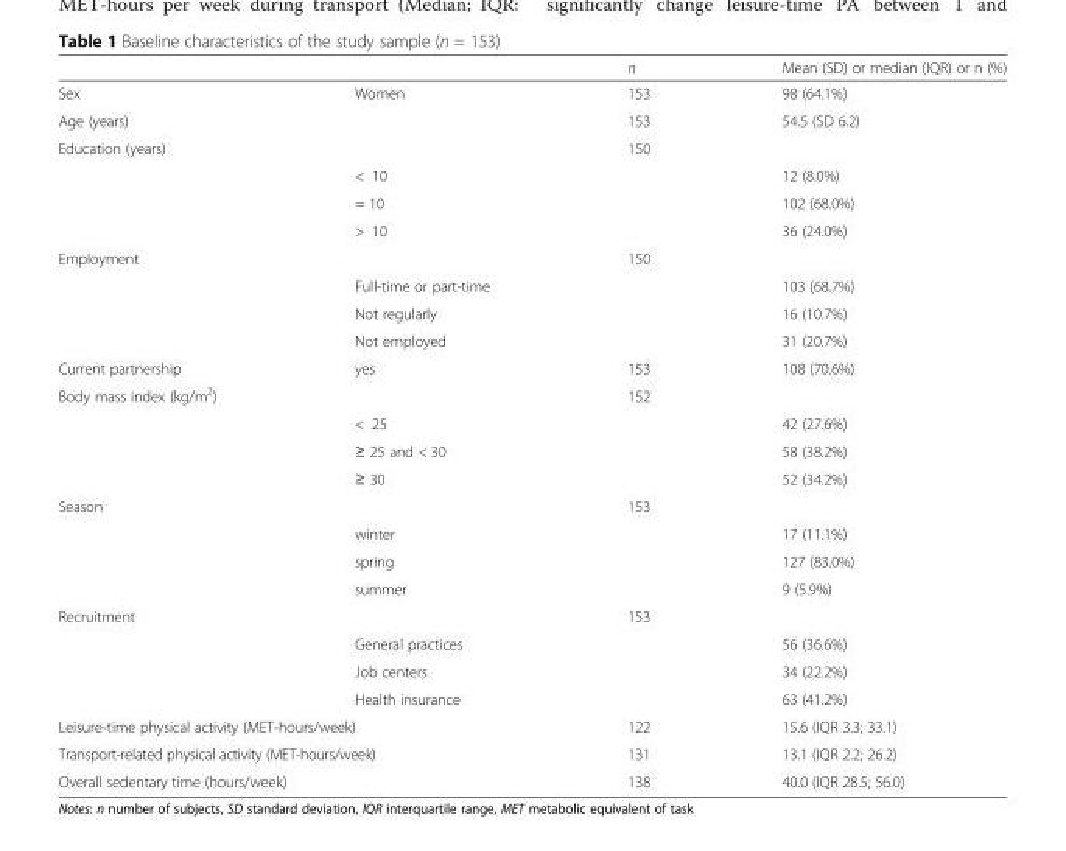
<table><thead><tr><td></td><td></td><td>n</td><td>Mean (SD) or median (IQR) or n (%)</td></tr></thead><tbody><tr><td>Sex</td><td>Women</td><td>153</td><td>98 (64.1%)</td></tr><tr><td>Age (years)</td><td></td><td>153</td><td>54.5 (SD 6.2)</td></tr><tr><td rowspan="4">Education (years)</td><td></td><td>150</td><td></td></tr><tr><td>&lt; 10</td><td></td><td>12 (8.0%)</td></tr><tr><td>= 10</td><td></td><td>102 (68.0%)</td></tr><tr><td>&gt; 10</td><td></td><td>36 (24.0%)</td></tr><tr><td rowspan="4">Employment</td><td></td><td>150</td><td></td></tr><tr><td>Full-time or part-time</td><td></td><td>103 (68.7%)</td></tr><tr><td>Not regularly</td><td></td><td>16 (10.7%)</td></tr><tr><td>Not employed</td><td></td><td>31 (20.7%)</td></tr><tr><td>Current partnership</td><td>yes</td><td>153</td><td>108 (70.6%)</td></tr><tr><td rowspan="4">Body mass index (kg/m<sup>2</sup>)</td><td></td><td>152</td><td></td></tr><tr><td>&lt; 25</td><td></td><td>42 (27.6%)</td></tr><tr><td>≥ 25 and &lt; 30</td><td></td><td>58 (38.2%)</td></tr><tr><td>≥ 30</td><td></td><td>52 (34.2%)</td></tr><tr><td rowspan="4">Season</td><td></td><td>153</td><td></td></tr><tr><td>winter</td><td></td><td>17 (11.1%)</td></tr><tr><td>spring</td><td></td><td>127 (83.0%)</td></tr><tr><td>summer</td><td></td><td>9 (5.9%)</td></tr><tr><td rowspan="4">Recruitment</td><td></td><td>153</td><td></td></tr><tr><td>General practices</td><td></td><td>56 (36.6%)</td></tr><tr><td>Job centers</td><td></td><td>34 (22.2%)</td></tr><tr><td>Health insurance</td><td></td><td>63 (41.2%)</td></tr><tr><td colspan="2">Leisure-time physical activity (MET-hours/week)</td><td>122</td><td>15.6 (IQR 3.3; 33.1)</td></tr><tr><td colspan="2">Transport-related physical activity (MET-hours/week)</td><td>131</td><td>13.1 (IQR 2.2; 26.2)</td></tr><tr><td colspan="2">Overall sedentary time (hours/week)</td><td>138</td><td>40.0 (IQR 28.5; 56.0)</td></tr></tbody></table>